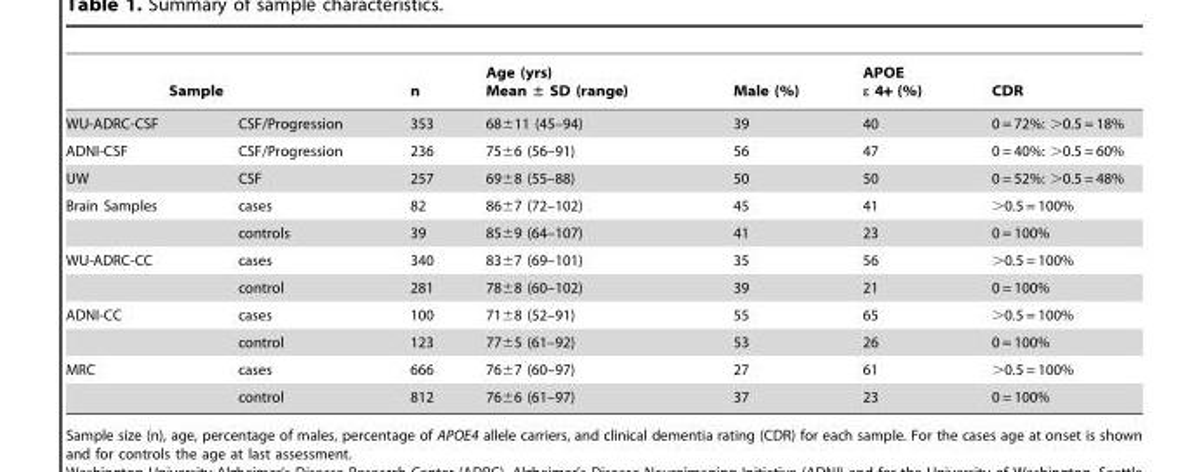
<table><thead><tr><td colspan="2">Sample</td><td rowspan="2">n 353</td><td rowspan="2">Age (yrs) Mean ± SD (range) 68±11 (45–94)</td><td rowspan="2">Male (%) 39</td><td rowspan="2">APOE ε 4+ (%) 40</td><td rowspan="2">CDR 0 = 72%: &gt;0.5 = 18%</td></tr><tr><td>WU-ADRC-CSF</td><td>CSF/Progression</td></tr></thead><tbody><tr><td>ADNI-CSF</td><td>CSF/Progression</td><td>236</td><td>75±6 (56–91)</td><td>56</td><td>47</td><td>0 = 40%: &gt;0.5 = 60%</td></tr><tr><td>UW</td><td>CSF</td><td>257</td><td>69±8 (55–88)</td><td>50</td><td>50</td><td>0 = 52%: &gt;0.5 = 48%</td></tr><tr><td rowspan="2">Brain Samples</td><td>cases</td><td>82</td><td>86±7 (72–102)</td><td>45</td><td>41</td><td>&gt;0.5 = 100%</td></tr><tr><td>controls</td><td>39</td><td>85±9 (64–107)</td><td>41</td><td>23</td><td>0 = 100%</td></tr><tr><td rowspan="2">WU-ADRC-CC</td><td>cases</td><td>340</td><td>83±7 (69–101)</td><td>35</td><td>56</td><td>&gt;0.5 = 100%</td></tr><tr><td>control</td><td>281</td><td>78±8 (60–102)</td><td>39</td><td>21</td><td>0 = 100%</td></tr><tr><td rowspan="2">ADNI-CC</td><td>cases</td><td>100</td><td>71±8 (52–91)</td><td>55</td><td>65</td><td>&gt;0.5 = 100%</td></tr><tr><td>control</td><td>123</td><td>77±5 (61–92)</td><td>53</td><td>26</td><td>0 = 100%</td></tr><tr><td rowspan="2">MRC</td><td>cases</td><td>666</td><td>76±7 (60–97)</td><td>27</td><td>61</td><td>&gt;0.5 = 100%</td></tr><tr><td>control</td><td>812</td><td>76±6 (61–97)</td><td>37</td><td>23</td><td>0 = 100%</td></tr></tbody></table>